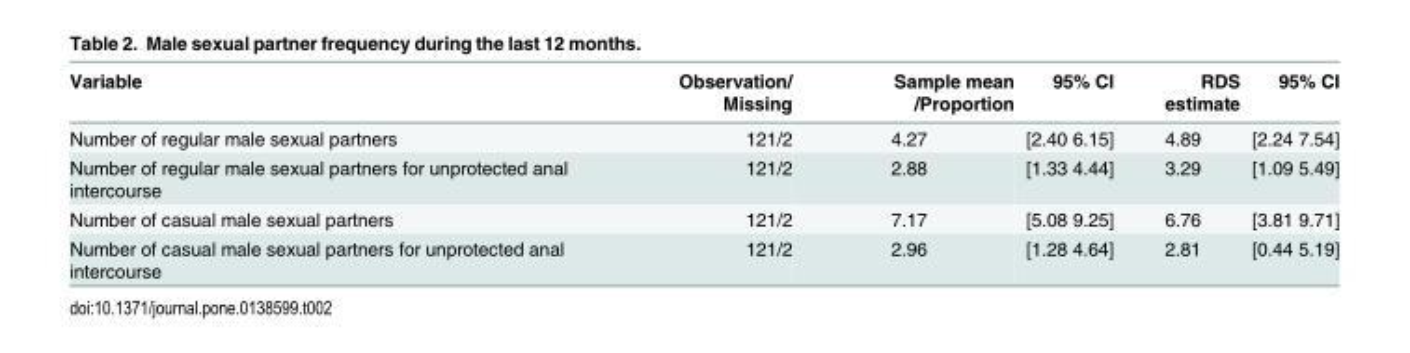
<table><thead><tr><td>Variable</td><td>Observation/ Missing</td><td>Sample mean /Proportion</td><td>95% CI</td><td>RDS estimate</td><td>95% CI</td></tr></thead><tbody><tr><td>Number of regular male sexual partners</td><td>121/2</td><td>4.27</td><td>[2.40 6.15]</td><td>4.89</td><td>[2.24 7.54]</td></tr><tr><td>Number of regular male sexual partners for unprotected anal intercourse</td><td>121/2</td><td>2.88</td><td>[1.33 4.44]</td><td>3.29</td><td>[1.09 5.49]</td></tr><tr><td>Number of casual male sexual partners</td><td>121/2</td><td>7.17</td><td>[5.08 9.25]</td><td>6.76</td><td>[3.81 9.71]</td></tr><tr><td>Number of casual male sexual partners for unprotected anal intercourse</td><td>121/2</td><td>2.96</td><td>[1.28 4.64]</td><td>2.81</td><td>[0.44 5.19]</td></tr></tbody></table>